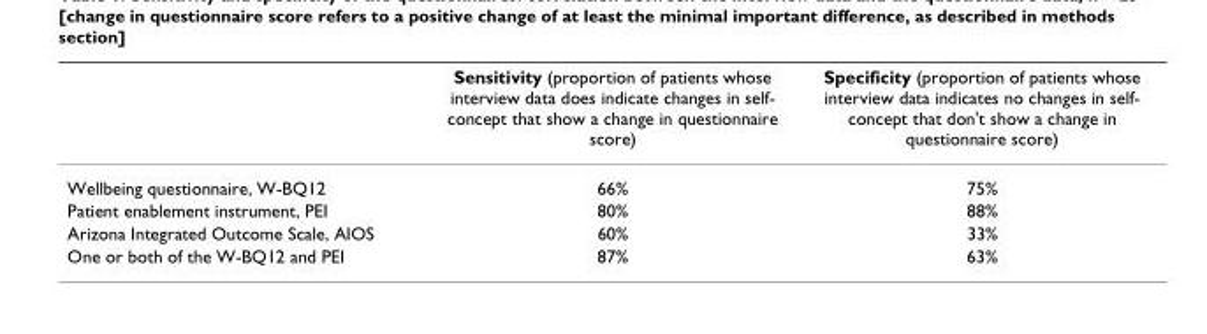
<table><thead><tr><td></td><td>Sensitivity (proportion of patients whose interview data does indicate changes in self- concept that show a change in questionnaire score)</td><td>Specificity (proportion of patients whose interview data indicates no changes in self- concept that don&#x27;t show a change in questionnaire score)</td></tr></thead><tbody><tr><td>Wellbeing questionnaire, W-BQ12</td><td>66%</td><td>75%</td></tr><tr><td>Patient enablement instrument, PEI</td><td>80%</td><td>88%</td></tr><tr><td>Arizona Integrated Outcome Scale, AIOS</td><td>60%</td><td>33%</td></tr><tr><td>One or both of the W-BQ12 and PEI</td><td>87%</td><td>63%</td></tr></tbody></table>